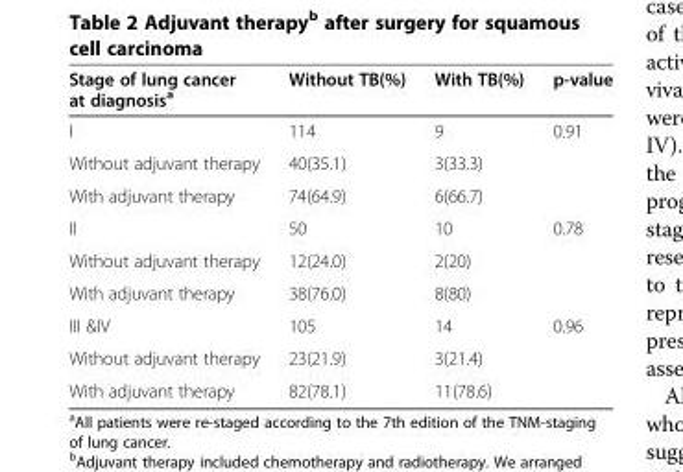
<table><thead><tr><td>Stage of lung cancer at diagnosis<sup>a</sup></td><td>Without TB(%)</td><td>With TB(%)</td><td>p-value</td></tr></thead><tbody><tr><td>I</td><td>114</td><td>9</td><td>0.91</td></tr><tr><td>Without adjuvant therapy</td><td>40(35.1)</td><td>3(33.3)</td><td rowspan="2"></td></tr><tr><td>With adjuvant therapy</td><td>74(64.9)</td><td>6(66.7)</td></tr><tr><td>II</td><td>50</td><td>10</td><td>0.78</td></tr><tr><td>Without adjuvant therapy</td><td>12(24.0)</td><td>2(20)</td><td rowspan="2"></td></tr><tr><td>With adjuvant therapy</td><td>38(76.0)</td><td>8(80)</td></tr><tr><td>III &amp;IV</td><td>105</td><td>14</td><td>0.96</td></tr><tr><td>Without adjuvant therapy</td><td>23(21.9)</td><td>3(21.4)</td><td></td></tr><tr><td>With adjuvant therapy</td><td>82(78.1)</td><td>11(78.6)</td><td></td></tr></tbody></table>